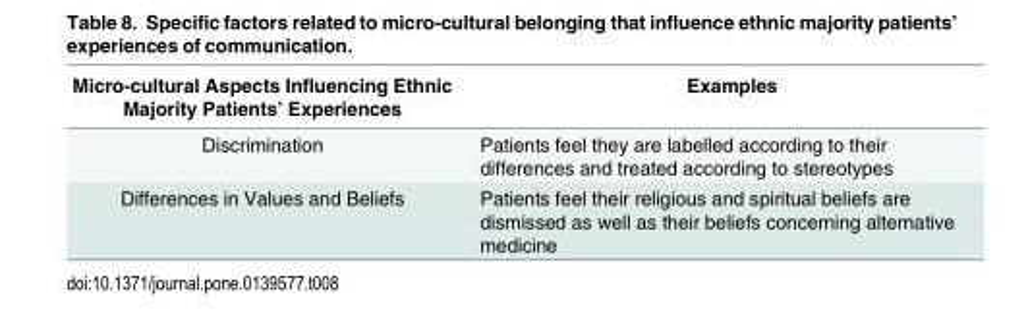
<table><thead><tr><td>Micro-cultural Aspects Influencing Ethnic Majority Patients’ Experiences</td><td>Examples</td></tr></thead><tbody><tr><td>Discrimination</td><td>Patients feel they are labelled according to their differences and treated according to stereotypes</td></tr><tr><td>Differences in Values and Beliefs</td><td>Patients feel their religious and spiritual beliefs are dismissed as well as their beliefs concerning alternative medicine</td></tr></tbody></table>